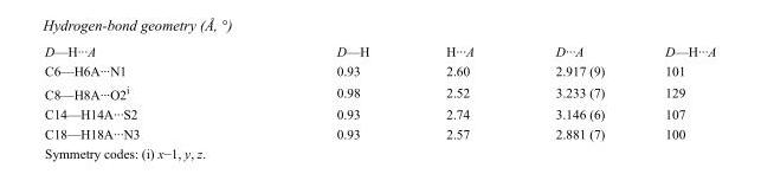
<table><tbody><tr><td>D—H···A</td><td>D—H</td><td>H···A</td><td>D···A</td><td>D—H···A</td></tr><tr><td>C6—H6A···N1</td><td>0.93</td><td>2.60</td><td>2.917 (9)</td><td>101</td></tr><tr><td>C8—H8A···O2<sup>i</sup></td><td>0.98</td><td>2.52</td><td>3.233 (7)</td><td>129</td></tr><tr><td>C14—H14A···S2</td><td>0.93</td><td>2.74</td><td>3.146 (6)</td><td>107</td></tr><tr><td>C18—H18A···N3</td><td>0.93</td><td>2.57</td><td>2.881 (7)</td><td>100</td></tr></tbody></table>